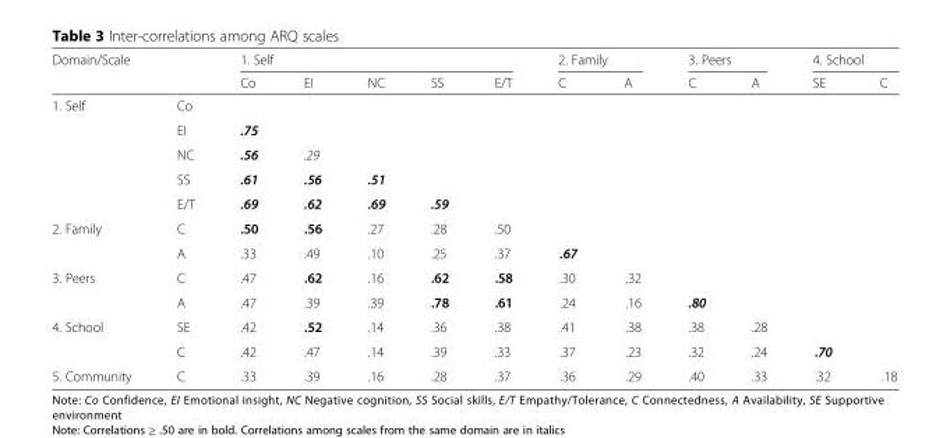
<table><thead><tr><td rowspan="2" colspan="2">Domain/Scale</td><td colspan="5">1. Self</td><td colspan="2">2. Family</td><td colspan="2">3. Peers</td><td colspan="2">4. School</td></tr><tr><td rowspan="2">Co</td><td rowspan="2">EI</td><td rowspan="2">NC</td><td rowspan="2">SS</td><td rowspan="2">E/T</td><td rowspan="2">C</td><td rowspan="2">A</td><td rowspan="2">C</td><td rowspan="2">A</td><td rowspan="2">SE</td><td rowspan="2">C</td></tr><tr><td>1. Self</td><td>Co</td></tr></thead><tbody><tr><td></td><td>EI</td><td>.75</td><td></td><td></td><td></td><td></td><td></td><td></td><td></td><td></td><td></td><td></td></tr><tr><td></td><td>NC</td><td>.56</td><td>.29</td><td></td><td></td><td></td><td></td><td></td><td></td><td></td><td></td><td></td></tr><tr><td></td><td>SS</td><td>.61</td><td>.56</td><td>.51</td><td></td><td></td><td></td><td></td><td></td><td></td><td></td><td></td></tr><tr><td></td><td>E/T</td><td>.69</td><td>.62</td><td>.69</td><td>.59</td><td></td><td></td><td></td><td></td><td></td><td></td><td></td></tr><tr><td rowspan="2">2. Family</td><td>C</td><td>.50</td><td>.56</td><td>.27</td><td>.28</td><td>.50</td><td></td><td></td><td></td><td></td><td></td><td></td></tr><tr><td>A</td><td>.33</td><td>.49</td><td>.10</td><td>.25</td><td>.37</td><td>.67</td><td></td><td></td><td></td><td></td><td></td></tr><tr><td rowspan="2">3. Peers</td><td>C</td><td>.47</td><td>.62</td><td>.16</td><td>.62</td><td>.58</td><td>.30</td><td>.32</td><td></td><td></td><td></td><td></td></tr><tr><td>A</td><td>.47</td><td>.39</td><td>.39</td><td>.78</td><td>.61</td><td>.24</td><td>.16</td><td>.80</td><td></td><td></td><td></td></tr><tr><td rowspan="2">4. School</td><td>SE</td><td>.42</td><td>.52</td><td>.14</td><td>.36</td><td>.38</td><td>.41</td><td>.38</td><td>.38</td><td>.28</td><td></td><td></td></tr><tr><td>C</td><td>.42</td><td>.47</td><td>.14</td><td>.39</td><td>.33</td><td>.37</td><td>.23</td><td>.32</td><td>.24</td><td>.70</td><td></td></tr><tr><td>5. Community</td><td>C</td><td>.33</td><td>.39</td><td>.16</td><td>.28</td><td>.37</td><td>.36</td><td>.29</td><td>.40</td><td>.33</td><td>.32</td><td>.18</td></tr></tbody></table>